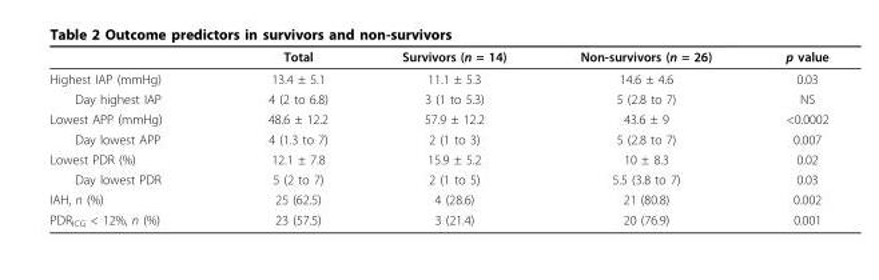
<table><thead><tr><td></td><td>Total</td><td>Survivors (n = 14)</td><td>Non-survivors (n = 26)</td><td>p value</td></tr></thead><tbody><tr><td>Highest IAP (mmHg)</td><td>13.4 ± 5.1</td><td>11.1 ± 5.3</td><td>14.6 ± 4.6</td><td>0.03</td></tr><tr><td>Day highest IAP</td><td>4 (2 to 6.8)</td><td>3 (1 to 5.3)</td><td>5 (2.8 to 7)</td><td>NS</td></tr><tr><td>Lowest APP (mmHg)</td><td>48.6 ± 12.2</td><td>57.9 ± 12.2</td><td>43.6 ± 9</td><td>&lt;0.0002</td></tr><tr><td>Day lowest APP</td><td>4 (1.3 to 7)</td><td>2 (1 to 3)</td><td>5 (2.8 to 7)</td><td>0.007</td></tr><tr><td>Lowest PDR (%)</td><td>12.1 ± 7.8</td><td>15.9 ± 5.2</td><td>10 ± 8.3</td><td>0.02</td></tr><tr><td>Day lowest PDR</td><td>5 (2 to 7)</td><td>2 (1 to 5)</td><td>5.5 (3.8 to 7)</td><td>0.03</td></tr><tr><td>IAH, n (%)</td><td>25 (62.5)</td><td>4 (28.6)</td><td>21 (80.8)</td><td>0.002</td></tr><tr><td>PDR<sub>ICG</sub> &lt; 12%, n (%)</td><td>23 (57.5)</td><td>3 (21.4)</td><td>20 (76.9)</td><td>0.001</td></tr></tbody></table>